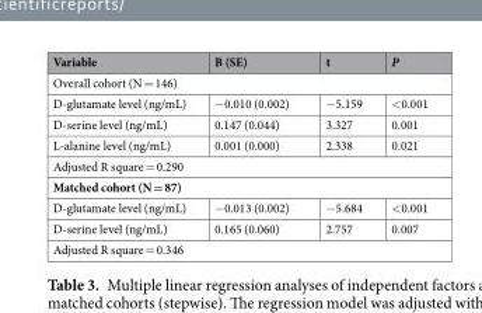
<table><thead><tr><td>Variable</td><td>B (SE)</td><td>t</td><td>P</td></tr></thead><tbody><tr><td colspan="4">Overall cohort (N = 146)</td></tr><tr><td>D-glutamate level (ng/mL)</td><td>−0.010 (0.002)</td><td>−5.159</td><td>&lt;0.001</td></tr><tr><td>D-serine level (ng/mL)</td><td>0.147 (0.044)</td><td>3.327</td><td>0.001</td></tr><tr><td>L-alanine level (ng/mL)</td><td>0.001 (0.000)</td><td>2.338</td><td>0.021</td></tr><tr><td colspan="4">Adjusted R square = 0.290</td></tr><tr><td colspan="4">Matched cohort (N = 87)</td></tr><tr><td>D-glutamate level (ng/mL)</td><td>−0.013 (0.002)</td><td>−5.684</td><td>&lt;0.001</td></tr><tr><td>D-serine level (ng/mL)</td><td>0.165 (0.060)</td><td>2.757</td><td>0.007</td></tr><tr><td colspan="4">Adjusted R square = 0.346</td></tr></tbody></table>